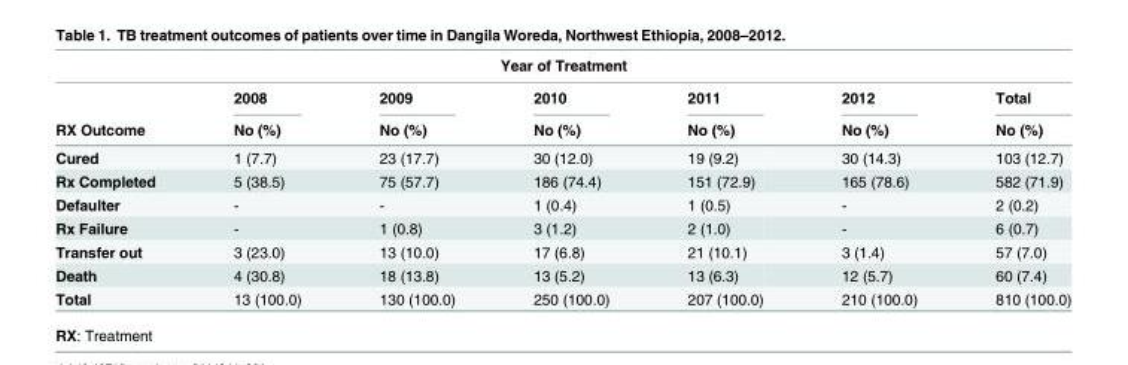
<table><thead><tr><td colspan="7">Year of Treatment</td></tr><tr><td rowspan="2">RX Outcome</td><td rowspan="2">2008 No (%)</td><td rowspan="2">2009 No (%)</td><td rowspan="2">2010 No (%)</td><td rowspan="2">2011 No (%)</td><td rowspan="2">2012 No (%)</td><td rowspan="2">Total No (%)</td></tr><tr></tr></thead><tbody><tr><td>Cured</td><td>1 (7.7)</td><td>23 (17.7)</td><td>30 (12.0)</td><td>19 (9.2)</td><td>30 (14.3)</td><td>103 (12.7)</td></tr><tr><td>Rx Completed</td><td>5 (38.5)</td><td>75 (57.7)</td><td>186 (74.4)</td><td>151 (72.9)</td><td>165 (78.6)</td><td>582 (71.9)</td></tr><tr><td>Defaulter</td><td>-</td><td>-</td><td>1 (0.4)</td><td>1 (0.5)</td><td>-</td><td>2 (0.2)</td></tr><tr><td>Rx Failure</td><td>-</td><td>1 (0.8)</td><td>3 (1.2)</td><td>2 (1.0)</td><td>-</td><td>6 (0.7)</td></tr><tr><td>Transfer out</td><td>3 (23.0)</td><td>13 (10.0)</td><td>17 (6.8)</td><td>21 (10.1)</td><td>3 (1.4)</td><td>57 (7.0)</td></tr><tr><td>Death</td><td>4 (30.8)</td><td>18 (13.8)</td><td>13 (5.2)</td><td>13 (6.3)</td><td>12 (5.7)</td><td>60 (7.4)</td></tr><tr><td>Total</td><td>13 (100.0)</td><td>130 (100.0)</td><td>250 (100.0)</td><td>207 (100.0)</td><td>210 (100.0)</td><td>810 (100.0)</td></tr></tbody></table>